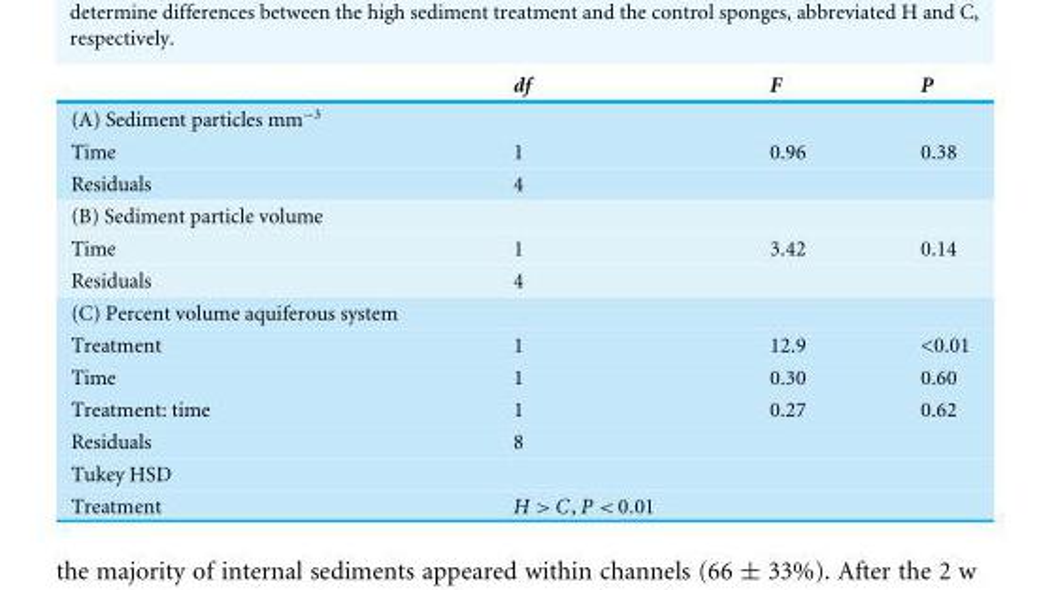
<table><thead><tr><td></td><td>df</td><td>F</td><td>P</td></tr></thead><tbody><tr><td colspan="4">(A) Sediment particles mm<sup>−3</sup></td></tr><tr><td>Time</td><td>1</td><td>0.96</td><td>0.38</td></tr><tr><td>Residuals</td><td>4</td><td></td><td></td></tr><tr><td colspan="4">(B) Sediment particle volume</td></tr><tr><td>Time</td><td>1</td><td>3.42</td><td>0.14</td></tr><tr><td>Residuals</td><td>4</td><td></td><td></td></tr><tr><td colspan="4">(C) Percent volume aquiferous system</td></tr><tr><td>Treatment</td><td>1</td><td>12.9</td><td>&lt;0.01</td></tr><tr><td>Time</td><td>1</td><td>0.30</td><td>0.60</td></tr><tr><td>Treatment: time</td><td>1</td><td>0.27</td><td>0.62</td></tr><tr><td>Residuals</td><td>8</td><td></td><td></td></tr><tr><td colspan="4">Tukey HSD</td></tr><tr><td>Treatment</td><td>H &gt; C, P &lt; 0.01</td><td></td><td></td></tr></tbody></table>